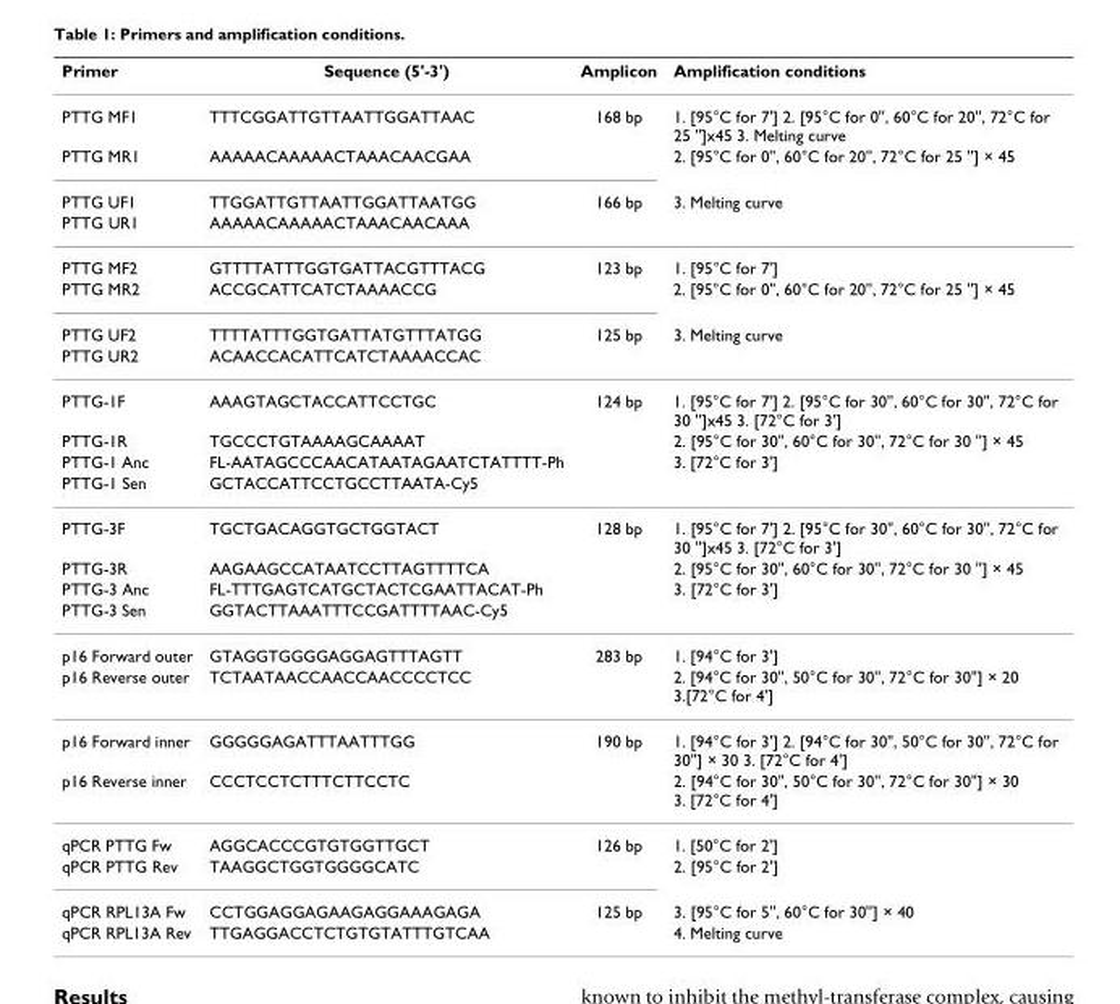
<table><thead><tr><td>Primer</td><td>Sequence (5&#x27;-3&#x27;)</td><td>Amplicon</td><td>Amplification conditions</td></tr></thead><tbody><tr><td>PTTG MF1</td><td>TTTCGGATTGTTAATTGGATTAAC</td><td>168 bp</td><td>1. [95°C for 7&#x27;] 2. [95°C for 0&#x27;&#x27;, 60°C for 20&#x27;&#x27;, 72°C for 25 &#x27;&#x27;]x45 3. Melting curve</td></tr><tr><td>PTTG MR1</td><td>AAAAACAAAAACTAAACAACGAA</td><td></td><td>2. [95°C for 0&#x27;&#x27;, 60°C for 20&#x27;&#x27;, 72°C for 25 &#x27;&#x27;] × 45</td></tr><tr><td>PTTG UF1</td><td>TTGGATTGTTAATTGGATTAATGG</td><td>166 bp</td><td>3. Melting curve</td></tr><tr><td>PTTG UR1</td><td>AAAAACAAAAACTAAACAACAAA</td><td></td><td></td></tr><tr><td>PTTG MF2</td><td>GTTTTATTTGGTGATTACGTTTACG</td><td>123 bp</td><td>1. [95°C for 7&#x27;]</td></tr><tr><td>PTTG MR2</td><td>ACCGCATTCATCTAAAACCG</td><td></td><td>2. [95°C for 0&#x27;&#x27;, 60°C for 20&#x27;&#x27;, 72°C for 25 &#x27;&#x27;] × 45</td></tr><tr><td>PTTG UF2</td><td>TTTTATTTGGTGATTATGTTTATGG</td><td>125 bp</td><td>3. Melting curve</td></tr><tr><td>PTTG UR2</td><td>ACAACCACATTCATCTAAAACCAC</td><td></td><td></td></tr><tr><td>PTTG-1F</td><td>AAAGTAGCTACCATTCCTGC</td><td>124 bp</td><td>1. [95°C for 7&#x27;] 2. [95°C for 30&#x27;&#x27;, 60°C for 30&#x27;&#x27;, 72°C for 30 &#x27;&#x27;]x45 3. [72°C for 3&#x27;]</td></tr><tr><td>PTTG-1R</td><td>TGCCCTGTAAAAGCAAAAT</td><td></td><td>2. [95°C for 30&#x27;&#x27;, 60°C for 30&#x27;&#x27;, 72°C for 30 &#x27;&#x27;] × 45</td></tr><tr><td>PTTG-1 Anc</td><td>FL-AATAGCCCAACATAATAGAATCTATTTT-Ph</td><td></td><td>3. [72°C for 3&#x27;]</td></tr><tr><td>PTTG-1 Sen</td><td>GCTACCATTCCTGCCTTAATA-Cy5</td><td></td><td></td></tr><tr><td>PTTG-3F</td><td>TGCTGACAGGTGCTGGTACT</td><td>128 bp</td><td>1. [95°C for 7&#x27;] 2. [95°C for 30&#x27;&#x27;, 60°C for 30&#x27;&#x27;, 72°C for 30 &#x27;&#x27;]x45 3. [72°C for 3&#x27;]</td></tr><tr><td>PTTG-3R</td><td>AAGAAGCCATAATCCTTAGTTTTCA</td><td></td><td>2. [95°C for 30&#x27;&#x27;, 60°C for 30&#x27;&#x27;, 72°C for 30 &#x27;&#x27;] × 45</td></tr><tr><td>PTTG-3 Anc</td><td>FL-TTTGAGTCATGCTACTCGAATTACAT-Ph</td><td></td><td>3. [72°C for 3&#x27;]</td></tr><tr><td>PTTG-3 Sen</td><td>GGTACTTAAATTTCCGATTTTAAC-Cy5</td><td></td><td></td></tr><tr><td>p16 Forward outer</td><td>GTAGGTGGGGAGGAGTTTAGTT</td><td>283 bp</td><td>1. [94°C for 3&#x27;]</td></tr><tr><td>p16 Reverse outer</td><td>TCTAATAACCAACCAACCCCTCC</td><td></td><td>2. [94°C for 30&#x27;&#x27;, 50°C for 30&#x27;&#x27;, 72°C for 30&#x27;&#x27;] × 20 3.[72°C for 4&#x27;]</td></tr><tr><td>p16 Forward inner</td><td>GGGGGAGATTTAATTTGG</td><td>190 bp</td><td>1. [94°C for 3&#x27;] 2. [94°C for 30&#x27;&#x27;, 50°C for 30&#x27;&#x27;, 72°C for 30&#x27;&#x27;] × 30 3. [72°C for 4&#x27;]</td></tr><tr><td>p16 Reverse inner</td><td>CCCTCCTCTTTCTTCCTC</td><td></td><td>2. [94°C for 30&#x27;&#x27;, 50°C for 30&#x27;&#x27;, 72°C for 30&#x27;&#x27;] × 30 3. [72°C for 4&#x27;]</td></tr><tr><td>qPCR PTTG Fw</td><td>AGGCACCCGTGTGGTTGCT</td><td>126 bp</td><td>1. [50°C for 2&#x27;]</td></tr><tr><td>qPCR PTTG Rev</td><td>TAAGGCTGGTGGGGCATC</td><td></td><td>2. [95°C for 2&#x27;]</td></tr><tr><td>qPCR RPL13A Fw</td><td>CCTGGAGGAGAAGAGGAAAGAGA</td><td>125 bp</td><td>3. [95°C for 5&#x27;&#x27;, 60°C for 30&#x27;&#x27;] × 40</td></tr><tr><td>qPCR RPL13A Rev</td><td>TTGAGGACCTCTGTGTATTTGTCAA</td><td></td><td>4. Melting curve</td></tr></tbody></table>